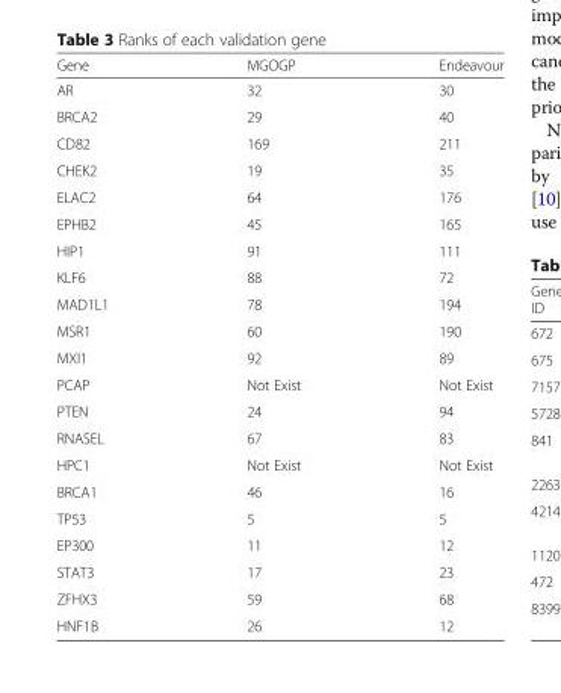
<table><thead><tr><td>Gene</td><td>MGOGP</td><td>Endeavour</td></tr></thead><tbody><tr><td>AR</td><td>32</td><td>30</td></tr><tr><td>BRCA2</td><td>29</td><td>40</td></tr><tr><td>CD82</td><td>169</td><td>211</td></tr><tr><td>CHEK2</td><td>19</td><td>35</td></tr><tr><td>ELAC2</td><td>64</td><td>176</td></tr><tr><td>EPHB2</td><td>45</td><td>165</td></tr><tr><td>HIP1</td><td>91</td><td>111</td></tr><tr><td>KLF6</td><td>88</td><td>72</td></tr><tr><td>MAD1L1</td><td>78</td><td>194</td></tr><tr><td>MSR1</td><td>60</td><td>190</td></tr><tr><td>MXI1</td><td>92</td><td>89</td></tr><tr><td>PCAP</td><td>Not Exist</td><td>Not Exist</td></tr><tr><td>PTEN</td><td>24</td><td>94</td></tr><tr><td>RNASEL</td><td>67</td><td>83</td></tr><tr><td>HPC1</td><td>Not Exist</td><td>Not Exist</td></tr><tr><td>BRCA1</td><td>46</td><td>16</td></tr><tr><td>TP53</td><td>5</td><td>5</td></tr><tr><td>EP300</td><td>11</td><td>12</td></tr><tr><td>STAT3</td><td>17</td><td>23</td></tr><tr><td>ZFHX3</td><td>59</td><td>68</td></tr><tr><td>HNF1B</td><td>26</td><td>12</td></tr></tbody></table>